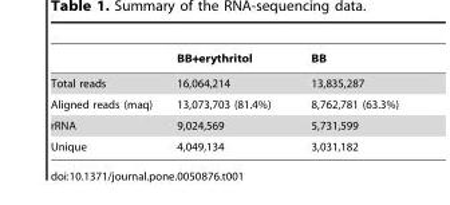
<table><thead><tr><td></td><td>BB+erythritol</td><td>BB</td></tr></thead><tbody><tr><td>Total reads</td><td>16,064,214</td><td>13,835,287</td></tr><tr><td>Aligned reads (maq)</td><td>13,073,703 (81.4%)</td><td>8,762,781 (63.3%)</td></tr><tr><td>rRNA</td><td>9,024,569</td><td>5,731,599</td></tr><tr><td>Unique</td><td>4,049,134</td><td>3,031,182</td></tr></tbody></table>